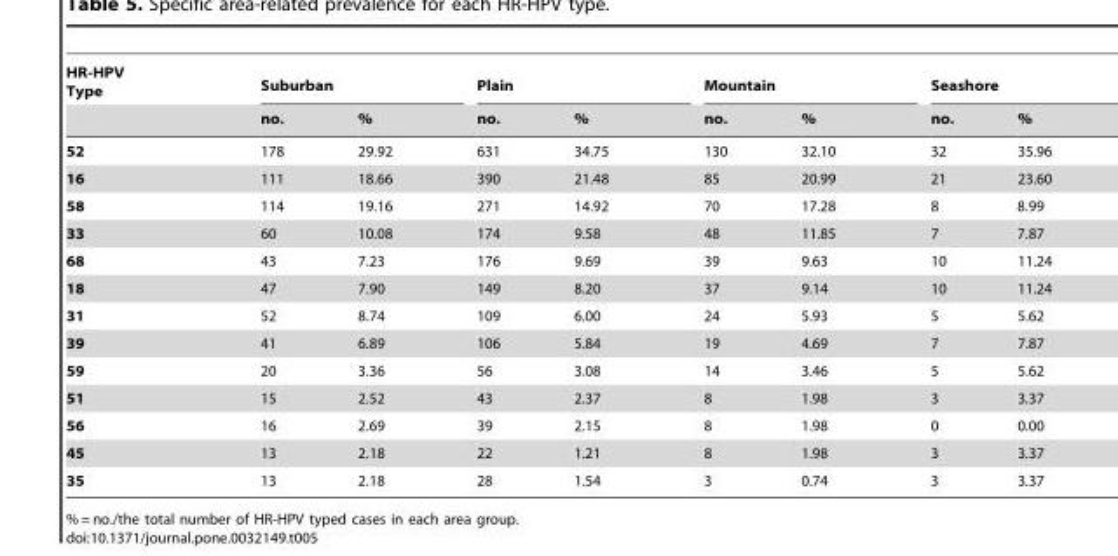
<table><thead><tr><td rowspan="2">HR-HPV Type</td><td colspan="2">Suburban</td><td colspan="2">Plain</td><td colspan="2">Mountain</td><td colspan="2">Seashore</td></tr><tr><td>no.</td><td>%</td><td>no.</td><td>%</td><td>no.</td><td>%</td><td>no.</td><td>%</td></tr></thead><tbody><tr><td>52</td><td>178</td><td>29.92</td><td>631</td><td>34.75</td><td>130</td><td>32.10</td><td>32</td><td>35.96</td></tr><tr><td>16</td><td>111</td><td>18.66</td><td>390</td><td>21.48</td><td>85</td><td>20.99</td><td>21</td><td>23.60</td></tr><tr><td>58</td><td>114</td><td>19.16</td><td>271</td><td>14.92</td><td>70</td><td>17.28</td><td>8</td><td>8.99</td></tr><tr><td>33</td><td>60</td><td>10.08</td><td>174</td><td>9.58</td><td>48</td><td>11.85</td><td>7</td><td>7.87</td></tr><tr><td>68</td><td>43</td><td>7.23</td><td>176</td><td>9.69</td><td>39</td><td>9.63</td><td>10</td><td>11.24</td></tr><tr><td>18</td><td>47</td><td>7.90</td><td>149</td><td>8.20</td><td>37</td><td>9.14</td><td>10</td><td>11.24</td></tr><tr><td>31</td><td>52</td><td>8.74</td><td>109</td><td>6.00</td><td>24</td><td>5.93</td><td>5</td><td>5.62</td></tr><tr><td>39</td><td>41</td><td>6.89</td><td>106</td><td>5.84</td><td>19</td><td>4.69</td><td>7</td><td>7.87</td></tr><tr><td>59</td><td>20</td><td>3.36</td><td>56</td><td>3.08</td><td>14</td><td>3.46</td><td>5</td><td>5.62</td></tr><tr><td>51</td><td>15</td><td>2.52</td><td>43</td><td>2.37</td><td>8</td><td>1.98</td><td>3</td><td>3.37</td></tr><tr><td>56</td><td>16</td><td>2.69</td><td>39</td><td>2.15</td><td>8</td><td>1.98</td><td>0</td><td>0.00</td></tr><tr><td>45</td><td>13</td><td>2.18</td><td>22</td><td>1.21</td><td>8</td><td>1.98</td><td>3</td><td>3.37</td></tr><tr><td>35</td><td>13</td><td>2.18</td><td>28</td><td>1.54</td><td>3</td><td>0.74</td><td>3</td><td>3.37</td></tr></tbody></table>